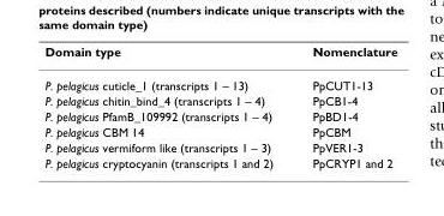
<table><thead><tr><td>Domain type</td><td>Nomenclature</td></tr></thead><tbody><tr><td>P. pelagicus cuticle_1 (transcripts 1 – 13)</td><td>PpCUT1-13</td></tr><tr><td>P. pelagicus chitin_bind_4 (transcripts 1 – 4)</td><td>PpCB1-4</td></tr><tr><td>P. pelagicus PfamB_109992 (transcripts 1 – 4)</td><td>PpBD1-4</td></tr><tr><td>P. pelagicus CBM 14</td><td>PpCBM</td></tr><tr><td>P. pelagicus vermiform like (transcripts 1 – 3)</td><td>PpVER1-3</td></tr><tr><td>P. pelagicus cryptocyanin (transcripts 1 and 2)</td><td>PpCRYP1 and 2</td></tr></tbody></table>